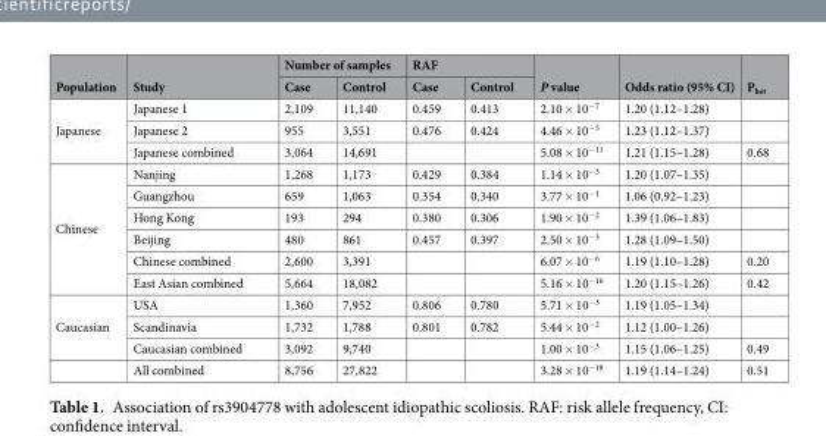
<table><thead><tr><td rowspan="2">Population</td><td rowspan="2">Study</td><td colspan="2">Number of samples</td><td colspan="2">RAF</td><td rowspan="2">P value</td><td rowspan="2">Odds ratio (95% CI)</td><td rowspan="2">P<sub>het</sub></td></tr><tr><td>Case</td><td>Control</td><td>Case</td><td>Control</td></tr></thead><tbody><tr><td rowspan="3">Japanese</td><td>Japanese 1</td><td>2,109</td><td>11,140</td><td>0.459</td><td>0.413</td><td>2.10 × 10<sup>−7</sup></td><td>1.20 (1.12–1.28)</td><td></td></tr><tr><td>Japanese 2</td><td>955</td><td>3,551</td><td>0.476</td><td>0.424</td><td>4.46 × 10<sup>−5</sup></td><td>1.23 (1.12–1.37)</td><td></td></tr><tr><td>Japanese combined</td><td>3,064</td><td>14,691</td><td></td><td></td><td>5.08 × 10<sup>−11</sup></td><td>1.21 (1.15–1.28)</td><td>0.68</td></tr><tr><td rowspan="6">Chinese</td><td>Nanjing</td><td>1,268</td><td>1,173</td><td>0.429</td><td>0.384</td><td>1.14 × 10<sup>−3</sup></td><td>1.20 (1.07–1.35)</td><td></td></tr><tr><td>Guangzhou</td><td>659</td><td>1,063</td><td>0.354</td><td>0.340</td><td>3.77 × 10<sup>−1</sup></td><td>1.06 (0.92–1.23)</td><td></td></tr><tr><td>Hong Kong</td><td>193</td><td>294</td><td>0.380</td><td>0.306</td><td>1.90 × 10<sup>−2</sup></td><td>1.39 (1.06–1.83)</td><td></td></tr><tr><td>Beijing</td><td>480</td><td>861</td><td>0.457</td><td>0.397</td><td>2.50 × 10<sup>−3</sup></td><td>1.28 (1.09–1.50)</td><td></td></tr><tr><td>Chinese combined</td><td>2,600</td><td>3,391</td><td></td><td></td><td>6.07 × 10<sup>−6</sup></td><td>1.19 (1.10–1.28)</td><td>0.20</td></tr><tr><td>East Asian combined</td><td>5,664</td><td>18,082</td><td></td><td></td><td>5.16 × 10<sup>−16</sup></td><td>1.20 (1.15–1.26)</td><td>0.42</td></tr><tr><td rowspan="4">Caucasian</td><td>USA</td><td>1,360</td><td>7,952</td><td>0.806</td><td>0.780</td><td>5.71 × 10<sup>−3</sup></td><td>1.19 (1.05–1.34)</td><td></td></tr><tr><td>Scandinavia</td><td>1,732</td><td>1,788</td><td>0.801</td><td>0.782</td><td>5.44 × 10<sup>−2</sup></td><td>1.12 (1.00–1.26)</td><td></td></tr><tr><td>Caucasian combined</td><td>3,092</td><td>9,740</td><td></td><td></td><td>1.00 × 10<sup>−3</sup></td><td>1.15 (1.06–1.25)</td><td>0.49</td></tr><tr><td>All combined</td><td>8,756</td><td>27,822</td><td></td><td></td><td>3.28 × 10<sup>−18</sup></td><td>1.19 (1.14–1.24)</td><td>0.51</td></tr></tbody></table>